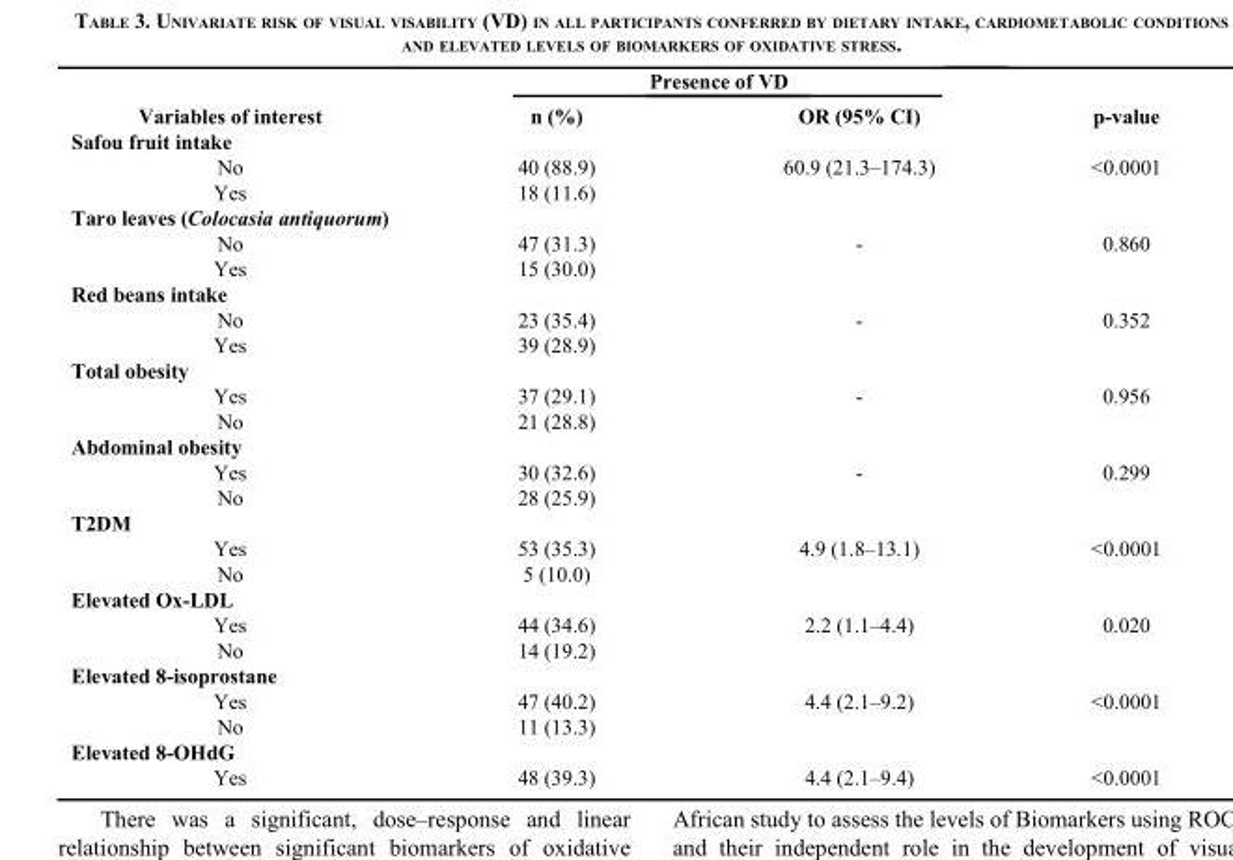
<table><thead><tr><td rowspan="2">Variables of interest</td><td colspan="2">Presence of VD</td><td rowspan="2">p-value</td></tr><tr><td>n (%)</td><td>OR (95% CI)</td></tr></thead><tbody><tr><td colspan="4">Safou fruit intake</td></tr><tr><td>No</td><td>40 (88.9)</td><td>60.9 (21.3–174.3)</td><td>&lt;0.0001</td></tr><tr><td>Yes</td><td>18 (11.6)</td><td></td><td></td></tr><tr><td colspan="4">Taro leaves (Colocasia antiquorum)</td></tr><tr><td>No</td><td>47 (31.3)</td><td>-</td><td>0.860</td></tr><tr><td>Yes</td><td>15 (30.0)</td><td></td><td></td></tr><tr><td colspan="4">Red beans intake</td></tr><tr><td>No</td><td>23 (35.4)</td><td>-</td><td>0.352</td></tr><tr><td>Yes</td><td>39 (28.9)</td><td></td><td></td></tr><tr><td colspan="4">Total obesity</td></tr><tr><td>Yes</td><td>37 (29.1)</td><td>-</td><td>0.956</td></tr><tr><td>No</td><td>21 (28.8)</td><td></td><td></td></tr><tr><td colspan="4">Abdominal obesity</td></tr><tr><td>Yes</td><td>30 (32.6)</td><td>-</td><td>0.299</td></tr><tr><td>No</td><td>28 (25.9)</td><td></td><td></td></tr><tr><td colspan="4">T2DM</td></tr><tr><td>Yes</td><td>53 (35.3)</td><td>4.9 (1.8–13.1)</td><td>&lt;0.0001</td></tr><tr><td>No</td><td>5 (10.0)</td><td></td><td></td></tr><tr><td colspan="4">Elevated Ox-LDL</td></tr><tr><td>Yes</td><td>44 (34.6)</td><td>2.2 (1.1–4.4)</td><td>0.020</td></tr><tr><td>No</td><td>14 (19.2)</td><td></td><td></td></tr><tr><td colspan="4">Elevated 8-isoprostane</td></tr><tr><td>Yes</td><td>47 (40.2)</td><td>4.4 (2.1–9.2)</td><td>&lt;0.0001</td></tr><tr><td>No</td><td>11 (13.3)</td><td></td><td></td></tr><tr><td colspan="4">Elevated 8-OHdG</td></tr><tr><td>Yes</td><td>48 (39.3)</td><td>4.4 (2.1–9.4)</td><td>&lt;0.0001</td></tr></tbody></table>